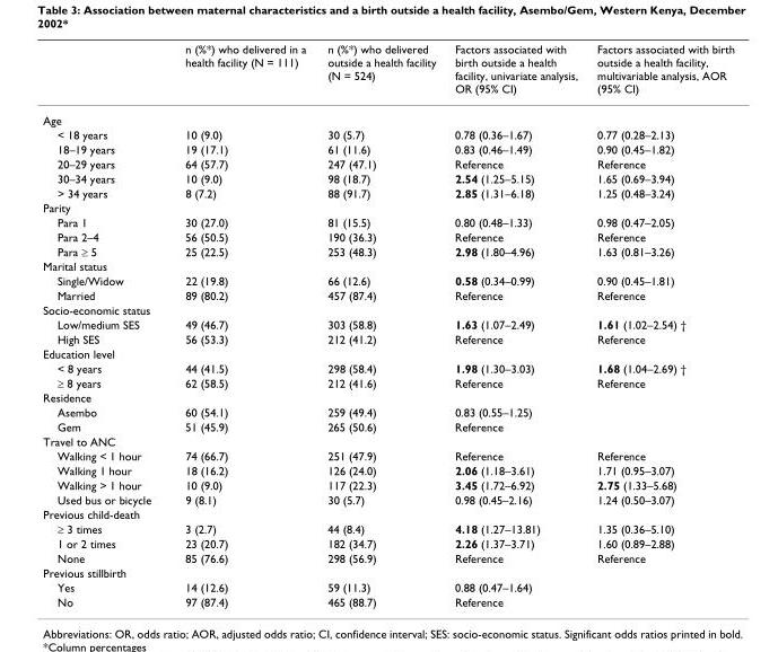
<table><thead><tr><td></td><td>n (%*) who delivered in a health facility (N = 111)</td><td>n (%*) who delivered outside a health facility (N = 524)</td><td>Factors associated with birth outside a health facility, univariate analysis, OR (95% CI)</td><td>Factors associated with birth outside a health facility, multivariable analysis, AOR (95% CI)</td></tr></thead><tbody><tr><td colspan="5">Age</td></tr><tr><td>&lt; 18 years</td><td>10 (9.0)</td><td>30 (5.7)</td><td>0.78 (0.36–1.67)</td><td>0.77 (0.28–2.13)</td></tr><tr><td>18–19 years</td><td>19 (17.1)</td><td>61 (11.6)</td><td>0.83 (0.46–1.49)</td><td>0.90 (0.45–1.82)</td></tr><tr><td>20–29 years</td><td>64 (57.7)</td><td>247 (47.1)</td><td>Reference</td><td>Reference</td></tr><tr><td>30–34 years</td><td>10 (9.0)</td><td>98 (18.7)</td><td>2.54 (1.25–5.15)</td><td>1.65 (0.69–3.94)</td></tr><tr><td>&gt; 34 years</td><td>8 (7.2)</td><td>88 (91.7)</td><td>2.85 (1.31–6.18)</td><td>1.25 (0.48–3.24)</td></tr><tr><td colspan="5">Parity</td></tr><tr><td>Para 1</td><td>30 (27.0)</td><td>81 (15.5)</td><td>0.80 (0.48–1.33)</td><td>0.98 (0.47–2.05)</td></tr><tr><td>Para 2–4</td><td>56 (50.5)</td><td>190 (36.3)</td><td>Reference</td><td>Reference</td></tr><tr><td>Para ≥ 5</td><td>25 (22.5)</td><td>253 (48.3)</td><td>2.98 (1.80–4.96)</td><td>1.63 (0.81–3.26)</td></tr><tr><td colspan="5">Marital status</td></tr><tr><td>Single/Widow</td><td>22 (19.8)</td><td>66 (12.6)</td><td>0.58 (0.34–0.99)</td><td>0.90 (0.45–1.81)</td></tr><tr><td>Married</td><td>89 (80.2)</td><td>457 (87.4)</td><td>Reference</td><td>Reference</td></tr><tr><td colspan="5">Socio-economic status</td></tr><tr><td>Low/medium SES</td><td>49 (46.7)</td><td>303 (58.8)</td><td>1.63 (1.07–2.49)</td><td>1.61 (1.02–2.54) †</td></tr><tr><td>High SES</td><td>56 (53.3)</td><td>212 (41.2)</td><td>Reference</td><td>Reference</td></tr><tr><td colspan="5">Education level</td></tr><tr><td>&lt; 8 years</td><td>44 (41.5)</td><td>298 (58.4)</td><td>1.98 (1.30–3.03)</td><td>1.68 (1.04–2.69) †</td></tr><tr><td>≥ 8 years</td><td>62 (58.5)</td><td>212 (41.6)</td><td>Reference</td><td>Reference</td></tr><tr><td colspan="5">Residence</td></tr><tr><td>Asembo</td><td>60 (54.1)</td><td>259 (49.4)</td><td>0.83 (0.55–1.25)</td><td></td></tr><tr><td>Gem</td><td>51 (45.9)</td><td>265 (50.6)</td><td>Reference</td><td></td></tr><tr><td colspan="5">Travel to ANC</td></tr><tr><td>Walking &lt; 1 hour</td><td>74 (66.7)</td><td>251 (47.9)</td><td>Reference</td><td>Reference</td></tr><tr><td>Walking 1 hour</td><td>18 (16.2)</td><td>126 (24.0)</td><td>2.06 (1.18–3.61)</td><td>1.71 (0.95–3.07)</td></tr><tr><td>Walking &gt; 1 hour</td><td>10 (9.0)</td><td>117 (22.3)</td><td>3.45 (1.72–6.92)</td><td>2.75 (1.33–5.68)</td></tr><tr><td>Used bus or bicycle</td><td>9 (8.1)</td><td>30 (5.7)</td><td>0.98 (0.45–2.16)</td><td>1.24 (0.50–3.07)</td></tr><tr><td colspan="5">Previous child-death</td></tr><tr><td>≥ 3 times</td><td>3 (2.7)</td><td>44 (8.4)</td><td>4.18 (1.27–13.81)</td><td>1.35 (0.36–5.10)</td></tr><tr><td>1 or 2 times</td><td>23 (20.7)</td><td>182 (34.7)</td><td>2.26 (1.37–3.71)</td><td>1.60 (0.89–2.88)</td></tr><tr><td>None</td><td>85 (76.6)</td><td>298 (56.9)</td><td>Reference</td><td>Reference</td></tr><tr><td colspan="5">Previous stillbirth</td></tr><tr><td>Yes</td><td>14 (12.6)</td><td>59 (11.3)</td><td>0.88 (0.47–1.64)</td><td></td></tr><tr><td>No</td><td>97 (87.4)</td><td>465 (88.7)</td><td>Reference</td><td></td></tr></tbody></table>